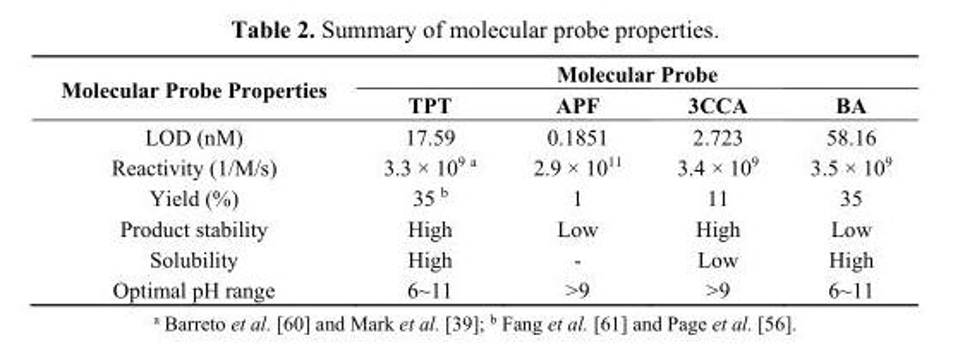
<table><thead><tr><td rowspan="2">Molecular Probe Properties</td><td colspan="4">Molecular Probe</td></tr><tr><td>TPT</td><td>APF</td><td>3CCA</td><td>BA</td></tr></thead><tbody><tr><td>LOD (nM)</td><td>17.59</td><td>0.1851</td><td>2.723</td><td>58.16</td></tr><tr><td>Reactivity (1/M/s)</td><td>3.3 × 10<sup>9 a</sup></td><td>2.9 × 10<sup>11</sup></td><td>3.4 × 10<sup>9</sup></td><td>3.5 × 10<sup>9</sup></td></tr><tr><td>Yield (%)</td><td>35 <sup>b</sup></td><td>1</td><td>11</td><td>35</td></tr><tr><td>Product stability</td><td>High</td><td>Low</td><td>High</td><td>Low</td></tr><tr><td>Solubility</td><td>High</td><td>-</td><td>Low</td><td>High</td></tr><tr><td>Optimal pH range</td><td>6~11</td><td>&gt;9</td><td>&gt;9</td><td>6~11</td></tr></tbody></table>